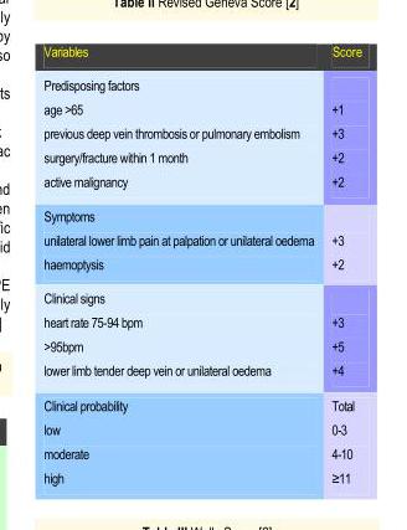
<table><thead><tr><td>Variables</td><td>Score</td></tr></thead><tbody><tr><td colspan="2">Predisposing factors</td></tr><tr><td>age &gt;65</td><td>+1</td></tr><tr><td>previous deep vein thrombosis or pulmonary embolism</td><td>+3</td></tr><tr><td>surgery/fracture within 1 month</td><td>+2</td></tr><tr><td>active malignancy</td><td>+2</td></tr><tr><td>Symptoms unilateral lower limb pain at palpation or unilateral oedema</td><td>+3</td></tr><tr><td>haemoptysis</td><td>+2</td></tr><tr><td>Clinical signs heart rate 75-94 bpm</td><td>+3</td></tr><tr><td>&gt;95bpm</td><td>+5</td></tr><tr><td>lower limb tender deep vein or unilateral oedema</td><td>+4</td></tr><tr><td>Clinical probability</td><td>Total</td></tr><tr><td>low</td><td>0-3</td></tr><tr><td>moderate</td><td>4-10</td></tr><tr><td>high</td><td>≥11</td></tr></tbody></table>